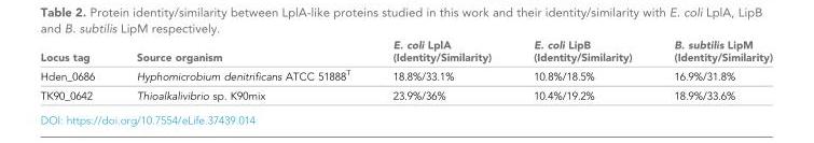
<table><thead><tr><td>Locus tag</td><td>Source organism</td><td>E. coli LplA (Identity/Similarity)</td><td>E. coli LipB (Identity/Similarity)</td><td>B. subtilis LipM (Identity/Similarity)</td></tr></thead><tbody><tr><td>Hden_0686</td><td>Hyphomicrobium denitrificans ATCC 51888<sup>T</sup></td><td>18.8%/33.1%</td><td>10.8%/18.5%</td><td>16.9%/31.8%</td></tr><tr><td>TK90_0642</td><td>Thioalkalivibrio sp. K90mix</td><td>23.9%/36%</td><td>10.4%/19.2%</td><td>18.9%/33.6%</td></tr></tbody></table>